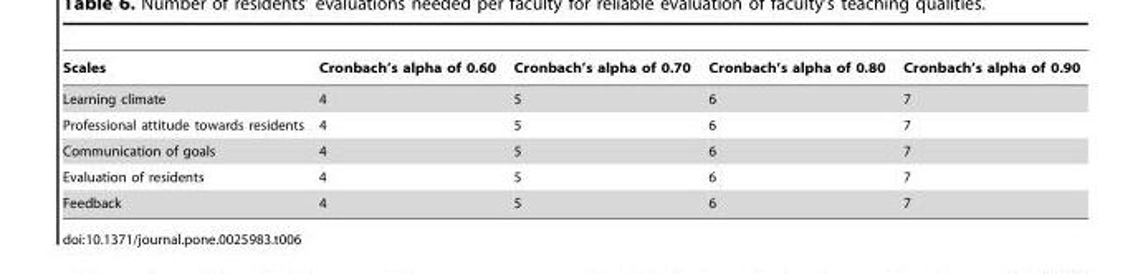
<table><thead><tr><td>Scales</td><td>Cronbach’s alpha of 0.60</td><td>Cronbach’s alpha of 0.70</td><td>Cronbach’s alpha of 0.80</td><td>Cronbach’s alpha of 0.90</td></tr></thead><tbody><tr><td>Learning climate</td><td>4</td><td>5</td><td>6</td><td>7</td></tr><tr><td>Professional attitude towards residents</td><td>4</td><td>5</td><td>6</td><td>7</td></tr><tr><td>Communication of goals</td><td>4</td><td>5</td><td>6</td><td>7</td></tr><tr><td>Evaluation of residents</td><td>4</td><td>5</td><td>6</td><td>7</td></tr><tr><td>Feedback</td><td>4</td><td>5</td><td>6</td><td>7</td></tr></tbody></table>